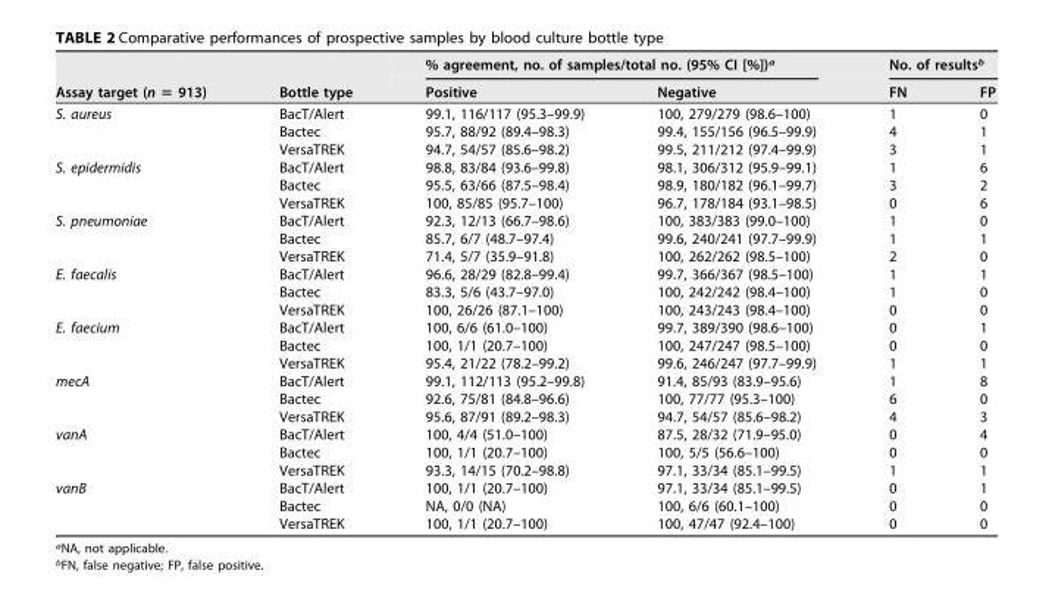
<table><thead><tr><td rowspan="2">Assay target (n = 913)</td><td rowspan="2">Bottle type</td><td colspan="2">% agreement, no. of samples/total no. (95% CI [%])<sup>a</sup></td><td colspan="2">No. of results<sup>b</sup></td></tr><tr><td>Positive</td><td>Negative</td><td>FN</td><td>FP</td></tr></thead><tbody><tr><td rowspan="3">S. aureus</td><td>BacT/Alert</td><td>99.1, 116/117 (95.3–99.9)</td><td>100, 279/279 (98.6–100)</td><td>1</td><td>0</td></tr><tr><td>Bactec</td><td>95.7, 88/92 (89.4–98.3)</td><td>99.4, 155/156 (96.5–99.9)</td><td>4</td><td>1</td></tr><tr><td>VersaTREK</td><td>94.7, 54/57 (85.6–98.2)</td><td>99.5, 211/212 (97.4–99.9)</td><td>3</td><td>1</td></tr><tr><td rowspan="3">S. epidermidis</td><td>BacT/Alert</td><td>98.8, 83/84 (93.6–99.8)</td><td>98.1, 306/312 (95.9–99.1)</td><td>1</td><td>6</td></tr><tr><td>Bactec</td><td>95.5, 63/66 (87.5–98.4)</td><td>98.9, 180/182 (96.1–99.7)</td><td>3</td><td>2</td></tr><tr><td>VersaTREK</td><td>100, 85/85 (95.7–100)</td><td>96.7, 178/184 (93.1–98.5)</td><td>0</td><td>6</td></tr><tr><td rowspan="3">S. pneumoniae</td><td>BacT/Alert</td><td>92.3, 12/13 (66.7–98.6)</td><td>100, 383/383 (99.0–100)</td><td>1</td><td>0</td></tr><tr><td>Bactec</td><td>85.7, 6/7 (48.7–97.4)</td><td>99.6, 240/241 (97.7–99.9)</td><td>1</td><td>1</td></tr><tr><td>VersaTREK</td><td>71.4, 5/7 (35.9–91.8)</td><td>100, 262/262 (98.5–100)</td><td>2</td><td>0</td></tr><tr><td rowspan="3">E. faecalis</td><td>BacT/Alert</td><td>96.6, 28/29 (82.8–99.4)</td><td>99.7, 366/367 (98.5–100)</td><td>1</td><td>1</td></tr><tr><td>Bactec</td><td>83.3, 5/6 (43.7–97.0)</td><td>100, 242/242 (98.4–100)</td><td>1</td><td>0</td></tr><tr><td>VersaTREK</td><td>100, 26/26 (87.1–100)</td><td>100, 243/243 (98.4–100)</td><td>0</td><td>0</td></tr><tr><td rowspan="3">E. faecium</td><td>BacT/Alert</td><td>100, 6/6 (61.0–100)</td><td>99.7, 389/390 (98.6–100)</td><td>0</td><td>1</td></tr><tr><td>Bactec</td><td>100, 1/1 (20.7–100)</td><td>100, 247/247 (98.5–100)</td><td>0</td><td>0</td></tr><tr><td>VersaTREK</td><td>95.4, 21/22 (78.2–99.2)</td><td>99.6, 246/247 (97.7–99.9)</td><td>1</td><td>1</td></tr><tr><td rowspan="3">mecA</td><td>BacT/Alert</td><td>99.1, 112/113 (95.2–99.8)</td><td>91.4, 85/93 (83.9–95.6)</td><td>1</td><td>8</td></tr><tr><td>Bactec</td><td>92.6, 75/81 (84.8–96.6)</td><td>100, 77/77 (95.3–100)</td><td>6</td><td>0</td></tr><tr><td>VersaTREK</td><td>95.6, 87/91 (89.2–98.3)</td><td>94.7, 54/57 (85.6–98.2)</td><td>4</td><td>3</td></tr><tr><td rowspan="3">vanA</td><td>BacT/Alert</td><td>100, 4/4 (51.0–100)</td><td>87.5, 28/32 (71.9–95.0)</td><td>0</td><td>4</td></tr><tr><td>Bactec</td><td>100, 1/1 (20.7–100)</td><td>100, 5/5 (56.6–100)</td><td>0</td><td>0</td></tr><tr><td>VersaTREK</td><td>93.3, 14/15 (70.2–98.8)</td><td>97.1, 33/34 (85.1–99.5)</td><td>1</td><td>1</td></tr><tr><td rowspan="3">vanB</td><td>BacT/Alert</td><td>100, 1/1 (20.7–100)</td><td>97.1, 33/34 (85.1–99.5)</td><td>0</td><td>1</td></tr><tr><td>Bactec</td><td>NA, 0/0 (NA)</td><td>100, 6/6 (60.1–100)</td><td>0</td><td>0</td></tr><tr><td>VersaTREK</td><td>100, 1/1 (20.7–100)</td><td>100, 47/47 (92.4–100)</td><td>0</td><td>0</td></tr></tbody></table>